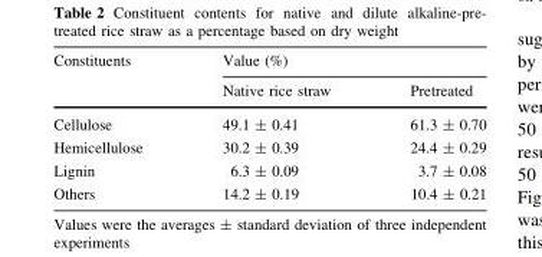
<table><thead><tr><td rowspan="2">Constituents</td><td colspan="2">Value (%)</td></tr><tr><td>Native rice straw</td><td>Pretreated</td></tr></thead><tbody><tr><td>Cellulose</td><td>49.1 ± 0.41</td><td>61.3 ± 0.70</td></tr><tr><td>Hemicellulose</td><td>30.2 ± 0.39</td><td>24.4 ± 0.29</td></tr><tr><td>Lignin Others</td><td>6.3 ± 0.09 14.2 ± 0.19</td><td>3.7 ± 0.08 10.4 ± 0.21</td></tr></tbody></table>